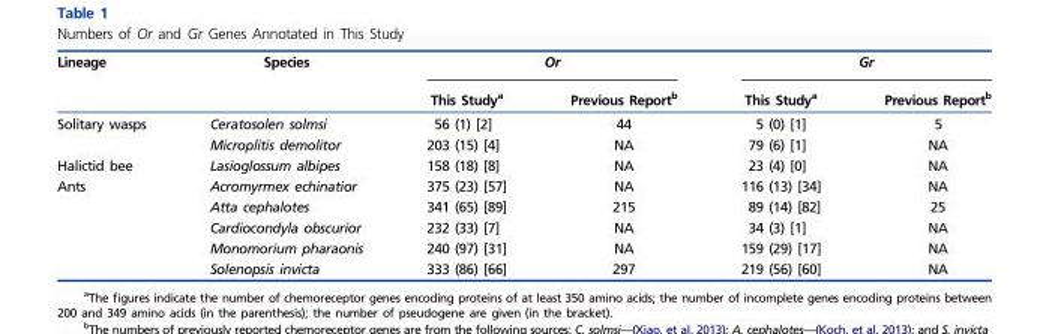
<table><thead><tr><td rowspan="2">Lineage</td><td rowspan="2">Species</td><td colspan="2">Or</td><td colspan="2">Gr</td></tr><tr><td>This Study<sup>a</sup></td><td>Previous Report<sup>b</sup></td><td>This Study<sup>a</sup></td><td>Previous Report<sup>b</sup></td></tr></thead><tbody><tr><td rowspan="2">Solitary wasps</td><td>Ceratosolen solmsi</td><td>56 (1) [2]</td><td>44</td><td>5 (0) [1]</td><td>5</td></tr><tr><td>Microplitis demolitor</td><td>203 (15) [4]</td><td>NA</td><td>79 (6) [1]</td><td>NA</td></tr><tr><td>Halictid bee</td><td>Lasioglossum albipes</td><td>158 (18) [8]</td><td>NA</td><td>23 (4) [0]</td><td>NA</td></tr><tr><td rowspan="5">Ants</td><td>Acromyrmex echinatior</td><td>375 (23) [57]</td><td>NA</td><td>116 (13) [34]</td><td>NA</td></tr><tr><td>Atta cephalotes</td><td>341 (65) [89]</td><td>215</td><td>89 (14) [82]</td><td>25</td></tr><tr><td>Cardiocondyla obscurior</td><td>232 (33) [7]</td><td>NA</td><td>34 (3) [1]</td><td>NA</td></tr><tr><td>Monomorium pharaonis</td><td>240 (97) [31]</td><td>NA</td><td>159 (29) [17]</td><td>NA</td></tr><tr><td>Solenopsis invicta</td><td>333 (86) [66]</td><td>297</td><td>219 (56) [60]</td><td>NA</td></tr></tbody></table>